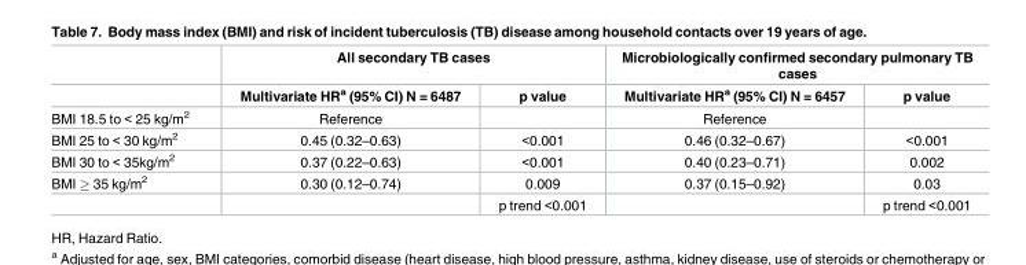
<table><thead><tr><td rowspan="2"></td><td colspan="2">All secondary TB cases</td><td colspan="2">Microbiologically confirmed secondary pulmonary TB cases</td></tr><tr><td>Multivariate HR<sup>a</sup> (95% CI) N = 6487</td><td>p value</td><td>Multivariate HR<sup>a</sup> (95% CI) N = 6457</td><td>p value</td></tr></thead><tbody><tr><td>BMI 18.5 to &lt; 25 kg/m<sup>2</sup></td><td>Reference</td><td></td><td>Reference</td><td></td></tr><tr><td>BMI 25 to &lt; 30 kg/m<sup>2</sup></td><td>0.45 (0.32–0.63)</td><td>&lt;0.001</td><td>0.46 (0.32–0.67)</td><td>&lt;0.001</td></tr><tr><td>BMI 30 to &lt; 35kg/m<sup>2</sup></td><td>0.37 (0.22–0.63)</td><td>&lt;0.001</td><td>0.40 (0.23–0.71)</td><td>0.002</td></tr><tr><td rowspan="2">BMI ≥ 35 kg/m<sup>2</sup></td><td>0.30 (0.12–0.74)</td><td>0.009</td><td>0.37 (0.15–0.92)</td><td>0.03</td></tr><tr><td></td><td>p trend &lt;0.001</td><td></td><td>p trend &lt;0.001</td></tr></tbody></table>